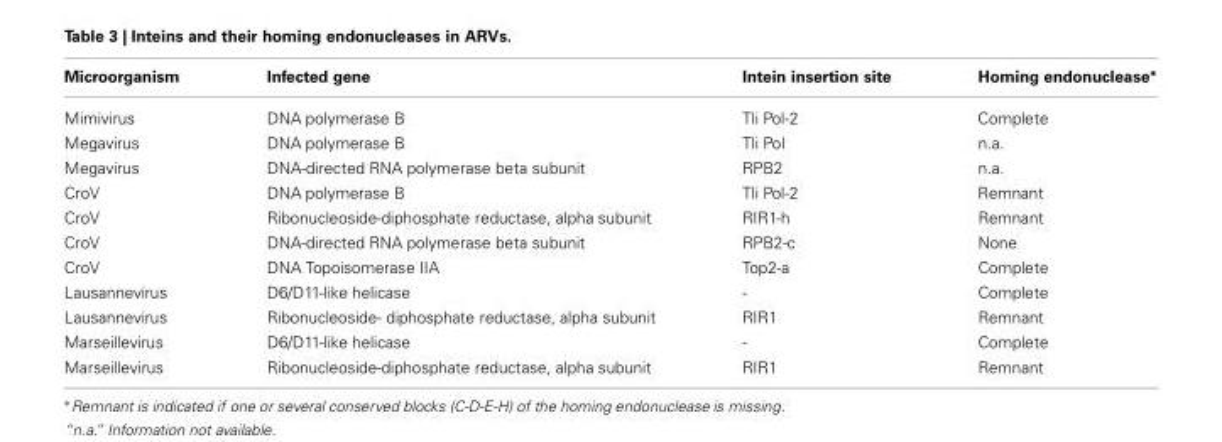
<table><thead><tr><td>Microorganism</td><td>Infected gene</td><td>Intein insertion site</td><td>Homing endonuclease∗</td></tr></thead><tbody><tr><td>Mimivirus</td><td>DNA polymerase B</td><td>Tli Pol-2</td><td>Complete</td></tr><tr><td>Megavirus</td><td>DNA polymerase B</td><td>Tli Pol</td><td>n.a.</td></tr><tr><td>Megavirus</td><td>DNA-directed RNA polymerase beta subunit</td><td>RPB2</td><td>n.a.</td></tr><tr><td>CroV</td><td>DNA polymerase B</td><td>Tli Pol-2</td><td>Remnant</td></tr><tr><td>CroV</td><td>Ribonucleoside-diphosphate reductase, alpha subunit</td><td>RIR1-h</td><td>Remnant</td></tr><tr><td>CroV</td><td>DNA-directed RNA polymerase beta subunit</td><td>RPB2-c</td><td>None</td></tr><tr><td>CroV</td><td>DNA Topoisomerase IIA</td><td>Top2-a</td><td>Complete</td></tr><tr><td>Lausannevirus</td><td>D6/D11-like helicase</td><td>-</td><td>Complete</td></tr><tr><td>Lausannevirus</td><td>Ribonucleoside- diphosphate reductase, alpha subunit</td><td>RIR1</td><td>Remnant</td></tr><tr><td>Marseillevirus</td><td>D6/D11-like helicase</td><td>-</td><td>Complete</td></tr><tr><td>Marseillevirus</td><td>Ribonucleoside-diphosphate reductase, alpha subunit</td><td>RIR1</td><td>Remnant</td></tr></tbody></table>